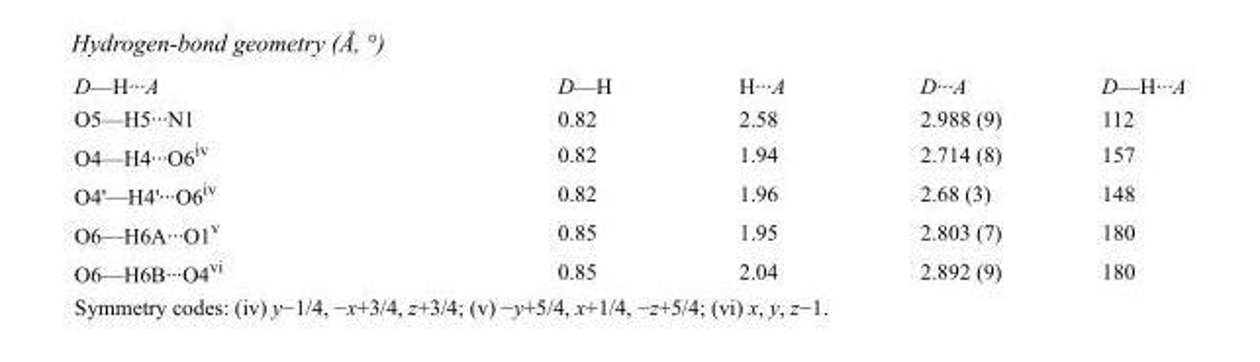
<table><tbody><tr><td>D—H···A</td><td>D—H</td><td>H···A</td><td>D···A</td><td>D—H···A</td></tr><tr><td>O5—H5···N1</td><td>0.82</td><td>2.58</td><td>2.988 (9)</td><td>112</td></tr><tr><td>O4—H4···O6<sup>iv</sup></td><td>0.82</td><td>1.94</td><td>2.714 (8)</td><td>157</td></tr><tr><td>O4&#x27;—H4&#x27;···O6<sup>iv</sup></td><td>0.82</td><td>1.96</td><td>2.68 (3)</td><td>148</td></tr><tr><td>O6—H6A···O1<sup>v</sup></td><td>0.85</td><td>1.95</td><td>2.803 (7)</td><td>180</td></tr><tr><td>O6—H6B···O4<sup>vi</sup></td><td>0.85</td><td>2.04</td><td>2.892 (9)</td><td>180</td></tr></tbody></table>